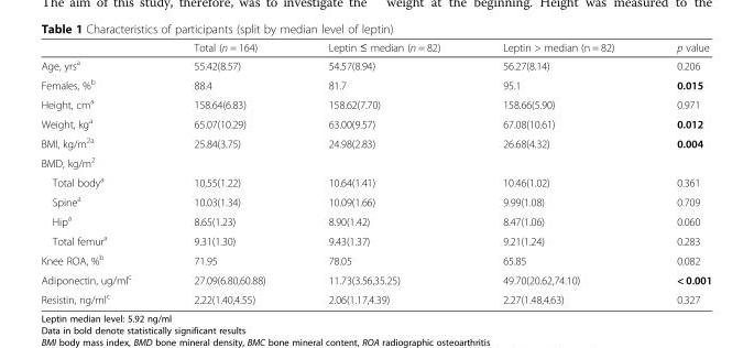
<table><thead><tr><td></td><td>Total (n = 164)</td><td>Leptin ≤ median (n = 82)</td><td>Leptin &gt; median (n = 82)</td><td>p value</td></tr></thead><tbody><tr><td>Age, yrs<sup>a</sup></td><td>55.42(8.57)</td><td>54.57(8.94)</td><td>56.27(8.14)</td><td>0.206</td></tr><tr><td>Females, %<sup>b</sup></td><td>88.4</td><td>81.7</td><td>95.1</td><td>0.015</td></tr><tr><td>Height, cm<sup>a</sup></td><td>158.64(6.83)</td><td>158.62(7.70)</td><td>158.66(5.90)</td><td>0.971</td></tr><tr><td>Weight, kg<sup>a</sup></td><td>65.07(10.29)</td><td>63.00(9.57)</td><td>67.08(10.61)</td><td>0.012</td></tr><tr><td>BMI, kg/m<sup>2a</sup></td><td>25.84(3.75)</td><td>24.98(2.83)</td><td>26.68(4.32)</td><td>0.004</td></tr><tr><td colspan="5">BMD, kg/m<sup>2</sup></td></tr><tr><td>Total body<sup>a</sup></td><td>10,55(1.22)</td><td>10.64(1.41)</td><td>10.46(1.02)</td><td>0.361</td></tr><tr><td>Spine<sup>a</sup></td><td>10.03(1.34)</td><td>10.09(1.66)</td><td>9.99(1.08)</td><td>0.709</td></tr><tr><td>Hip<sup>a</sup></td><td>8.65(1.23)</td><td>8.90(1.42)</td><td>8.47(1.06)</td><td>0.060</td></tr><tr><td>Total femur<sup>a</sup></td><td>9.31(1.30)</td><td>9.43(1.37)</td><td>9.21(1.24)</td><td>0.283</td></tr><tr><td>Knee ROA, %<sup>b</sup></td><td>71.95</td><td>78.05</td><td>65.85</td><td>0.082</td></tr><tr><td>Adiponectin, ug/ml<sup>c</sup></td><td>27.09(6.80,60.88)</td><td>11.73(3.56,35.25)</td><td>49.70(20.62,74.10)</td><td>&lt; 0.001</td></tr><tr><td>Resistin, ng/ml<sup>c</sup></td><td>2.22(1.40,4.55)</td><td>2.06(1.17,4.39)</td><td>2.27(1.48,4.63)</td><td>0.327</td></tr></tbody></table>